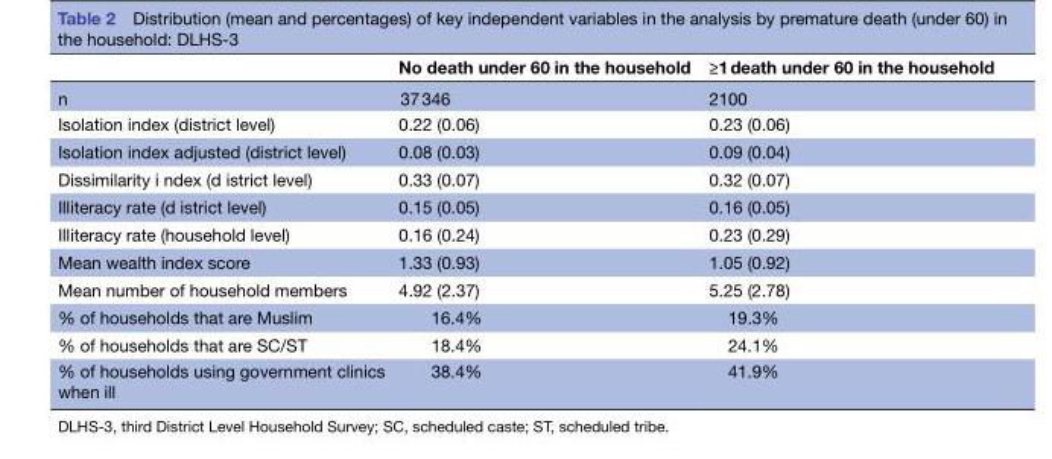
<table><thead><tr><td></td><td>No death under 60 in the household</td><td>≥1 death under 60 in the household</td></tr></thead><tbody><tr><td>n</td><td>37 346</td><td>2100</td></tr><tr><td>Isolation index (district level)</td><td>0.22 (0.06)</td><td>0.23 (0.06)</td></tr><tr><td>Isolation index adjusted (district level)</td><td>0.08 (0.03)</td><td>0.09 (0.04)</td></tr><tr><td>Dissimilarity i ndex (d istrict level)</td><td>0.33 (0.07)</td><td>0.32 (0.07)</td></tr><tr><td>Illiteracy rate (d istrict level)</td><td>0.15 (0.05)</td><td>0.16 (0.05)</td></tr><tr><td>Illiteracy rate (household level)</td><td>0.16 (0.24)</td><td>0.23 (0.29)</td></tr><tr><td>Mean wealth index score</td><td>1.33 (0.93)</td><td>1.05 (0.92)</td></tr><tr><td>Mean number of household members</td><td>4.92 (2.37)</td><td>5.25 (2.78)</td></tr><tr><td>% of households that are Muslim</td><td>16.4%</td><td>19.3%</td></tr><tr><td>% of households that are SC/ST</td><td>18.4%</td><td>24.1%</td></tr><tr><td>% of households using government clinics when ill</td><td>38.4%</td><td>41.9%</td></tr></tbody></table>